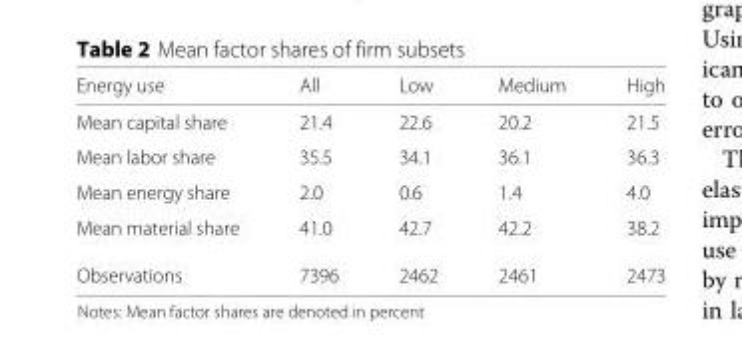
<table><thead><tr><td>Energy use</td><td>All</td><td>Low</td><td>Medium</td><td>High</td></tr></thead><tbody><tr><td>Mean capital share</td><td>21.4</td><td>22.6</td><td>20.2</td><td>21.5</td></tr><tr><td>Mean labor share</td><td>35.5</td><td>34.1</td><td>36.1</td><td>36.3</td></tr><tr><td>Mean energy share</td><td>2.0</td><td>0.6</td><td>1.4</td><td>4.0</td></tr><tr><td>Mean material share</td><td>41.0</td><td>42.7</td><td>42.2</td><td>38.2</td></tr><tr><td>Observations</td><td>7396</td><td>2462</td><td>2461</td><td>2473</td></tr></tbody></table>